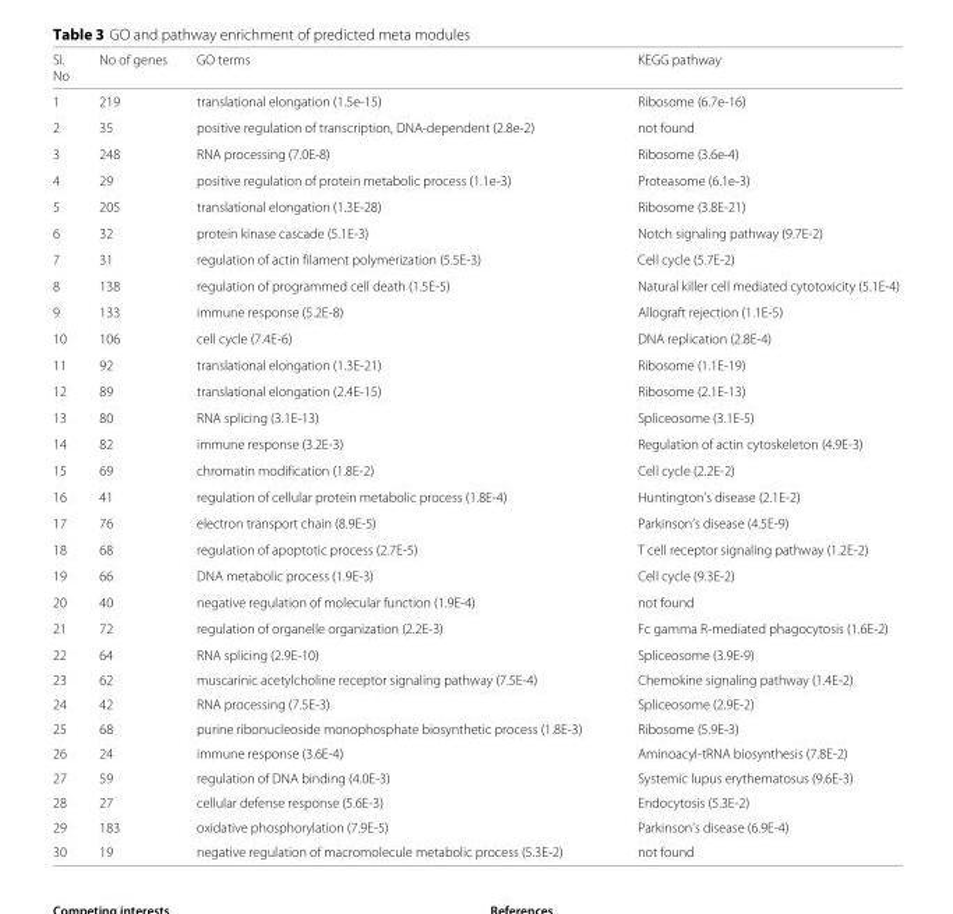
<table><thead><tr><td>Sl. No</td><td>No of genes</td><td>GO terms</td><td>KEGG pathway</td></tr></thead><tbody><tr><td>1</td><td>219</td><td>translational elongation (1.5e-15)</td><td>Ribosome (6.7e-16)</td></tr><tr><td>2</td><td>35</td><td>positive regulation of transcription, DNA-dependent (2.8e-2)</td><td>not found</td></tr><tr><td>3</td><td>248</td><td>RNA processing (7.0E-8)</td><td>Ribosome (3.6e-4)</td></tr><tr><td>4</td><td>29</td><td>positive regulation of protein metabolic process (1.1e-3)</td><td>Proteasome (6.1e-3)</td></tr><tr><td>5</td><td>205</td><td>translational elongation (1.3E-28)</td><td>Ribosome (3.8E-21)</td></tr><tr><td>6</td><td>32</td><td>protein kinase cascade (5.1E-3)</td><td>Notch signaling pathway (9.7E-2)</td></tr><tr><td>7</td><td>31</td><td>regulation of actin filament polymerization (5.5E-3)</td><td>Cell cycle (5.7E-2)</td></tr><tr><td>8</td><td>138</td><td>regulation of programmed cell death (1.5E-5)</td><td>Natural killer cell mediated cytotoxicity (5.1E-4)</td></tr><tr><td>9</td><td>133</td><td>immune response (5.2E-8)</td><td>Allograft rejection (1.1E-5)</td></tr><tr><td>10</td><td>106</td><td>cell cycle (7.4E-6)</td><td>DNA replication (2.8E-4)</td></tr><tr><td>11</td><td>92</td><td>translational elongation (1.3E-21)</td><td>Ribosome (1.1E-19)</td></tr><tr><td>12</td><td>89</td><td>translational elongation (2.4E-15)</td><td>Ribosome (2.1E-13)</td></tr><tr><td>13</td><td>80</td><td>RNA splicing (3.1E-13)</td><td>Spliceosome (3.1E-5)</td></tr><tr><td>14</td><td>82</td><td>immune response (3.2E-3)</td><td>Regulation of actin cytoskeleton (4.9E-3)</td></tr><tr><td>15</td><td>69</td><td>chromatin modification (1.8E-2)</td><td>Cell cycle (2.2E-2)</td></tr><tr><td>16</td><td>41</td><td>regulation of cellular protein metabolic process (1.8E-4)</td><td>Huntington’s disease (2.1E-2)</td></tr><tr><td>17</td><td>76</td><td>electron transport chain (8.9E-5)</td><td>Parkinson’s disease (4.5E-9)</td></tr><tr><td>18</td><td>68</td><td>regulation of apoptotic process (2.7E-5)</td><td>T cell receptor signaling pathway (1.2E-2)</td></tr><tr><td>19</td><td>66</td><td>DNA metabolic process (1.9E-3)</td><td>Cell cycle (9.3E-2)</td></tr><tr><td>20</td><td>40</td><td>negative regulation of molecular function (1.9E-4)</td><td>not found</td></tr><tr><td>21</td><td>72</td><td>regulation of organelle organization (2.2E-3)</td><td>Fc gamma R-mediated phagocytosis (1.6E-2)</td></tr><tr><td>22</td><td>64</td><td>RNA splicing (2.9E-10)</td><td>Spliceosome (3.9E-9)</td></tr><tr><td>23</td><td>62</td><td>muscarinic acetylcholine receptor signaling pathway (7.5E-4)</td><td>Chemokine signaling pathway (1.4E-2)</td></tr><tr><td>24</td><td>42</td><td>RNA processing (7.5E-3)</td><td>Spliceosome (2.9E-2)</td></tr><tr><td>25</td><td>68</td><td>purine ribonucleoside monophosphate biosynthetic process (1.8E-3)</td><td>Ribosome (5.9E-3)</td></tr><tr><td>26</td><td>24</td><td>immune response (3.6E-4)</td><td>Aminoacyl-tRNA biosynthesis (7.8E-2)</td></tr><tr><td>27</td><td>59</td><td>regulation of DNA binding (4.0E-3)</td><td>Systemic lupus erythematosus (9.6E-3)</td></tr><tr><td>28</td><td>27</td><td>cellular defense response (5.6E-3)</td><td>Endocytosis (5.3E-2)</td></tr><tr><td>29</td><td>183</td><td>oxidative phosphorylation (7.9E-5)</td><td>Parkinson’s disease (6.9E-4)</td></tr><tr><td>30</td><td>19</td><td>negative regulation of macromolecule metabolic process (5.3E-2)</td><td>not found</td></tr></tbody></table>